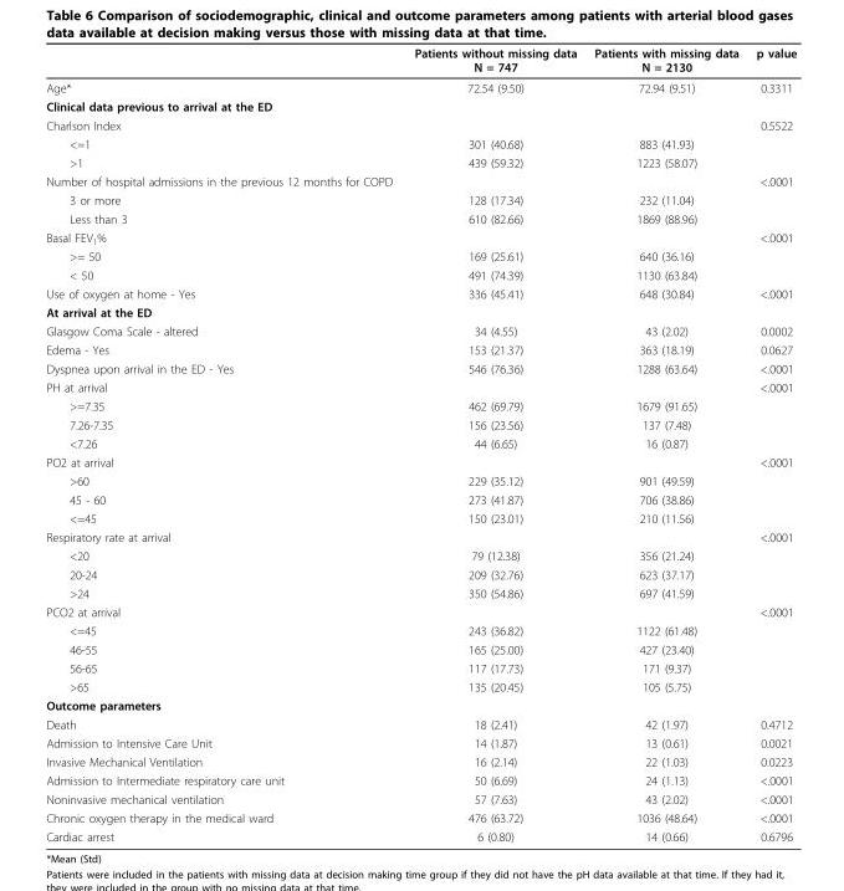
<table><thead><tr><td></td><td>Patients without missing data N = 747</td><td>Patients with missing data N = 2130</td><td>p value</td></tr></thead><tbody><tr><td>Age*</td><td>72.54 (9.50)</td><td>72.94 (9.51)</td><td>0.3311</td></tr><tr><td colspan="4">Clinical data previous to arrival at the ED</td></tr><tr><td>Charlson Index</td><td></td><td></td><td>0.5522</td></tr><tr><td>&lt;=1</td><td>301 (40.68)</td><td>883 (41.93)</td><td></td></tr><tr><td>&gt;1</td><td>439 (59.32)</td><td>1223 (58.07)</td><td></td></tr><tr><td>Number of hospital admissions in the previous 12 months for COPD</td><td></td><td></td><td>&lt;.0001</td></tr><tr><td>3 or more</td><td>128 (17.34)</td><td>232 (11.04)</td><td></td></tr><tr><td>Less than 3</td><td>610 (82.66)</td><td>1869 (88.96)</td><td></td></tr><tr><td>Basal FEV<sub>1</sub>%</td><td></td><td></td><td>&lt;.0001</td></tr><tr><td>&gt;= 50</td><td>169 (25.61)</td><td>640 (36.16)</td><td></td></tr><tr><td>&lt; 50</td><td>491 (74.39)</td><td>1130 (63.84)</td><td></td></tr><tr><td>Use of oxygen at home - Yes</td><td>336 (45.41)</td><td>648 (30.84)</td><td>&lt;.0001</td></tr><tr><td colspan="4">At arrival at the ED</td></tr><tr><td>Glasgow Coma Scale - altered</td><td>34 (4.55)</td><td>43 (2.02)</td><td>0.0002</td></tr><tr><td>Edema - Yes</td><td>153 (21.37)</td><td>363 (18.19)</td><td>0.0627</td></tr><tr><td>Dyspnea upon arrival in the ED - Yes</td><td>546 (76.36)</td><td>1288 (63.64)</td><td>&lt;.0001</td></tr><tr><td>PH at arrival</td><td></td><td></td><td>&lt;.0001</td></tr><tr><td>&gt;=7.35</td><td>462 (69.79)</td><td>1679 (91.65)</td><td></td></tr><tr><td>7.26-7.35</td><td>156 (23.56)</td><td>137 (7.48)</td><td></td></tr><tr><td>&lt;7.26</td><td>44 (6.65)</td><td>16 (0.87)</td><td></td></tr><tr><td>PO2 at arrival</td><td></td><td></td><td>&lt;.0001</td></tr><tr><td>&gt;60</td><td>229 (35.12)</td><td>901 (49.59)</td><td></td></tr><tr><td>45 - 60</td><td>273 (41.87)</td><td>706 (38.86)</td><td></td></tr><tr><td>&lt;=45</td><td>150 (23.01)</td><td>210 (11.56)</td><td></td></tr><tr><td>Respiratory rate at arrival</td><td></td><td></td><td>&lt;.0001</td></tr><tr><td>&lt;20</td><td>79 (12.38)</td><td>356 (21.24)</td><td></td></tr><tr><td>20-24</td><td>209 (32.76)</td><td>623 (37.17)</td><td></td></tr><tr><td>&gt;24</td><td>350 (54.86)</td><td>697 (41.59)</td><td></td></tr><tr><td>PCO2 at arrival</td><td></td><td></td><td>&lt;.0001</td></tr><tr><td>&lt;=45</td><td>243 (36.82)</td><td>1122 (61.48)</td><td></td></tr><tr><td>46-55</td><td>165 (25.00)</td><td>427 (23.40)</td><td></td></tr><tr><td>56-65</td><td>117 (17.73)</td><td>171 (9.37)</td><td></td></tr><tr><td>&gt;65</td><td>135 (20.45)</td><td>105 (5.75)</td><td></td></tr><tr><td colspan="4">Outcome parameters</td></tr><tr><td>Death</td><td>18 (2.41)</td><td>42 (1.97)</td><td>0.4712</td></tr><tr><td>Admission to Intensive Care Unit</td><td>14 (1.87)</td><td>13 (0.61)</td><td>0.0021</td></tr><tr><td>Invasive Mechanical Ventilation</td><td>16 (2.14)</td><td>22 (1.03)</td><td>0.0223</td></tr><tr><td>Admission to Intermediate respiratory care unit</td><td>50 (6.69)</td><td>24 (1.13)</td><td>&lt;.0001</td></tr><tr><td>Noninvasive mechanical ventilation</td><td>57 (7.63)</td><td>43 (2.02)</td><td>&lt;.0001</td></tr><tr><td>Chronic oxygen therapy in the medical ward</td><td>476 (63.72)</td><td>1036 (48.64)</td><td>&lt;.0001</td></tr><tr><td>Cardiac arrest</td><td>6 (0.80)</td><td>14 (0.66)</td><td>0.6796</td></tr></tbody></table>